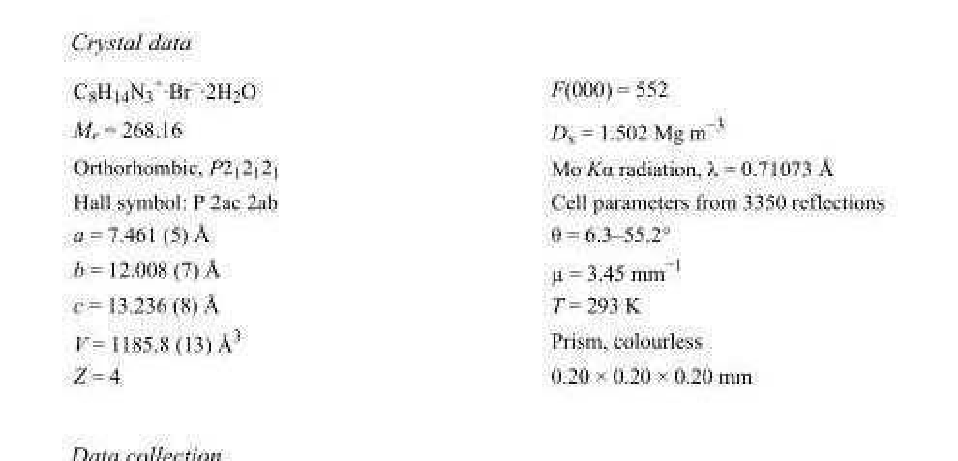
<table><tbody><tr><td>C<sub>8</sub>H<sub>14</sub>N<sub>3</sub> <sup>+</sup>·Br<sup>−</sup>·2H<sub>2</sub>O</td><td>F(000) = 552</td></tr><tr><td>M<sub>r</sub> = 268.16</td><td>D<sub>x</sub> = 1.502 Mg m<sup>−3</sup></td></tr><tr><td>Orthorhombic, P2<sub>1</sub>2<sub>1</sub>2<sub>1</sub></td><td>Mo Kα radiation, λ = 0.71073 Å</td></tr><tr><td>Hall symbol: P 2ac 2ab</td><td>Cell parameters from 3350 reflections</td></tr><tr><td>a = 7.461 (5) Å</td><td>θ = 6.3–55.2°</td></tr><tr><td>b = 12.008 (7) Å</td><td>µ = 3.45 mm<sup>−1</sup></td></tr><tr><td>c = 13.236 (8) Å</td><td>T = 293 K</td></tr><tr><td>V = 1185.8 (13) Å<sup>3</sup></td><td>Prism, colourless</td></tr><tr><td>Z = 4</td><td>0.20 × 0.20 × 0.20 mm</td></tr></tbody></table>